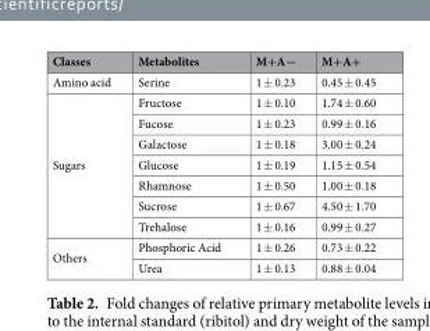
<table><thead><tr><td>Classes</td><td>Metabolites</td><td>M+A−</td><td>M+A+</td></tr></thead><tbody><tr><td>Amino acid</td><td>Serine</td><td>1 ± 0.23</td><td>0.45 ± 0.45</td></tr><tr><td rowspan="7">Sugars</td><td>Fructose</td><td>1 ± 0.10</td><td>1.74 ± 0.60</td></tr><tr><td>Fucose</td><td>1 ± 0.23</td><td>0.99 ± 0.16</td></tr><tr><td>Galactose</td><td>1 ± 0.18</td><td>3.00 ± 0.24</td></tr><tr><td>Glucose</td><td>1 ± 0.19</td><td>1.15 ± 0.54</td></tr><tr><td>Rhamnose</td><td>1 ± 0.50</td><td>1.00 ± 0.18</td></tr><tr><td>Sucrose</td><td>1 ± 0.67</td><td>4.50 ± 1.70</td></tr><tr><td>Trehalose</td><td>1 ± 0.16</td><td>0.99 ± 0.27</td></tr><tr><td rowspan="2">Others</td><td>Phosphoric Acid</td><td>1 ± 0.26</td><td>0.73 ± 0.22</td></tr><tr><td>Urea</td><td>1 ± 0.13</td><td>0.88 ± 0.04</td></tr></tbody></table>